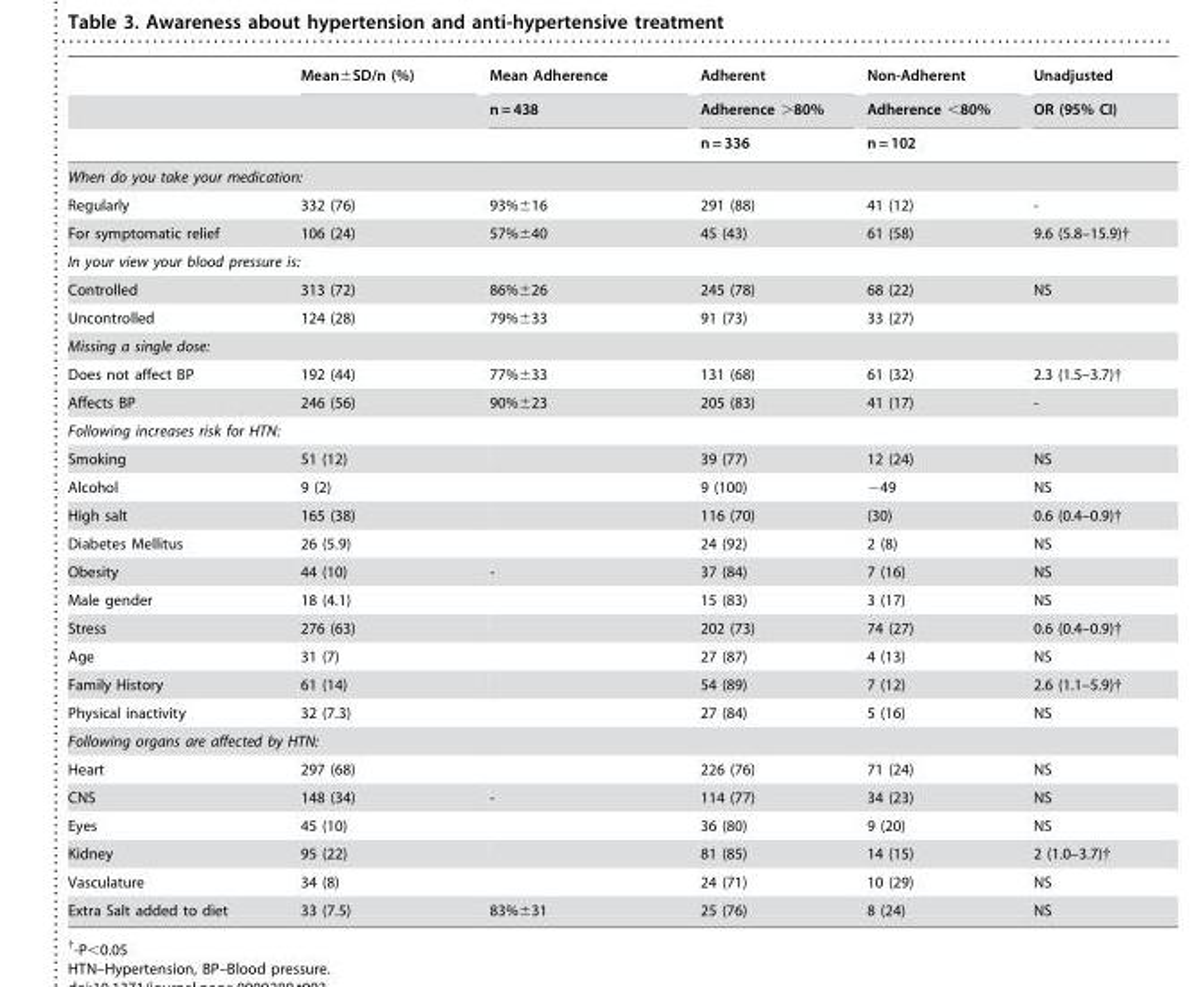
<table><thead><tr><td rowspan="3"></td><td rowspan="3">Mean±SD/n (%)</td><td rowspan="3">Mean Adherence n = 438</td><td rowspan="3">Adherent Adherence &gt;80% n = 336</td><td rowspan="3">Non-Adherent Adherence &lt;80% n = 102</td><td rowspan="3">Unadjusted OR (95% CI)</td></tr><tr></tr><tr></tr></thead><tbody><tr><td colspan="6">When do you take your medication:</td></tr><tr><td>Regularly</td><td>332 (76)</td><td>93%±16</td><td>291 (88)</td><td>41 (12)</td><td>-</td></tr><tr><td>For symptomatic relief</td><td>106 (24)</td><td>57%±40</td><td>45 (43)</td><td>61 (58)</td><td>9.6 (5.8–15.9)†</td></tr><tr><td colspan="6">In your view your blood pressure is:</td></tr><tr><td>Controlled</td><td>313 (72)</td><td>86%±26</td><td>245 (78)</td><td>68 (22)</td><td>NS</td></tr><tr><td>Uncontrolled</td><td>124 (28)</td><td>79%±33</td><td>91 (73)</td><td>33 (27)</td><td></td></tr><tr><td colspan="6">Missing a single dose:</td></tr><tr><td>Does not affect BP</td><td>192 (44)</td><td>77%±33</td><td>131 (68)</td><td>61 (32)</td><td>2.3 (1.5–3.7)†</td></tr><tr><td>Affects BP</td><td>246 (56)</td><td>90%±23</td><td>205 (83)</td><td>41 (17)</td><td>-</td></tr><tr><td colspan="6">Following increases risk for HTN:</td></tr><tr><td>Smoking</td><td>51 (12)</td><td></td><td>39 (77)</td><td>12 (24)</td><td>NS</td></tr><tr><td>Alcohol</td><td>9 (2)</td><td></td><td>9 (100)</td><td>−49</td><td>NS</td></tr><tr><td>High salt</td><td>165 (38)</td><td></td><td>116 (70)</td><td>(30)</td><td>0.6 (0.4–0.9)†</td></tr><tr><td>Diabetes Mellitus</td><td>26 (5.9)</td><td></td><td>24 (92)</td><td>2 (8)</td><td>NS</td></tr><tr><td>Obesity</td><td>44 (10)</td><td>-</td><td>37 (84)</td><td>7 (16)</td><td>NS</td></tr><tr><td>Male gender</td><td>18 (4.1)</td><td></td><td>15 (83)</td><td>3 (17)</td><td>NS</td></tr><tr><td>Stress</td><td>276 (63)</td><td></td><td>202 (73)</td><td>74 (27)</td><td>0.6 (0.4–0.9)†</td></tr><tr><td>Age</td><td>31 (7)</td><td></td><td>27 (87)</td><td>4 (13)</td><td>NS</td></tr><tr><td>Family History</td><td>61 (14)</td><td></td><td>54 (89)</td><td>7 (12)</td><td>2.6 (1.1–5.9)†</td></tr><tr><td>Physical inactivity</td><td>32 (7.3)</td><td></td><td>27 (84)</td><td>5 (16)</td><td>NS</td></tr><tr><td colspan="6">Following organs are affected by HTN:</td></tr><tr><td>Heart</td><td>297 (68)</td><td></td><td>226 (76)</td><td>71 (24)</td><td>NS</td></tr><tr><td>CNS</td><td>148 (34)</td><td>-</td><td>114 (77)</td><td>34 (23)</td><td>NS</td></tr><tr><td>Eyes</td><td>45 (10)</td><td></td><td>36 (80)</td><td>9 (20)</td><td>NS</td></tr><tr><td>Kidney</td><td>95 (22)</td><td></td><td>81 (85)</td><td>14 (15)</td><td>2 (1.0–3.7)†</td></tr><tr><td>Vasculature</td><td>34 (8)</td><td></td><td>24 (71)</td><td>10 (29)</td><td>NS</td></tr><tr><td>Extra Salt added to diet</td><td>33 (7.5)</td><td>83%±31</td><td>25 (76)</td><td>8 (24)</td><td>NS</td></tr></tbody></table>